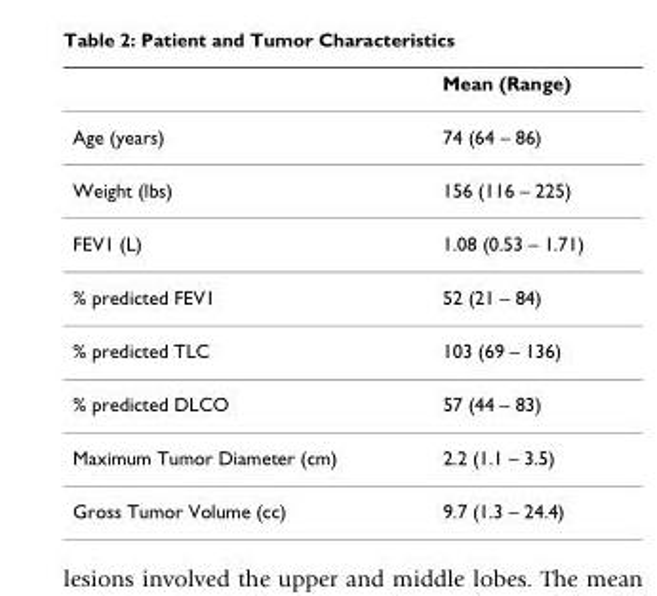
<table><thead><tr><td></td><td>Mean (Range)</td></tr></thead><tbody><tr><td>Age (years)</td><td>74 (64 – 86)</td></tr><tr><td>Weight (lbs)</td><td>156 (116 – 225)</td></tr><tr><td>FEV1 (L)</td><td>1.08 (0.53 – 1.71)</td></tr><tr><td>% predicted FEV1</td><td>52 (21 – 84)</td></tr><tr><td>% predicted TLC</td><td>103 (69 – 136)</td></tr><tr><td>% predicted DLCO</td><td>57 (44 – 83)</td></tr><tr><td>Maximum Tumor Diameter (cm)</td><td>2.2 (1.1 – 3.5)</td></tr><tr><td>Gross Tumor Volume (cc)</td><td>9.7 (1.3 – 24.4)</td></tr></tbody></table>